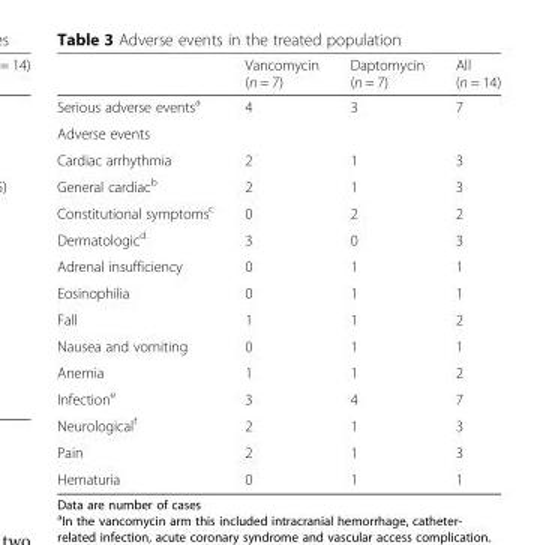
<table><thead><tr><td></td><td>Vancomycin (n = 7)</td><td>Daptomycin (n = 7)</td><td>All (n = 14)</td></tr></thead><tbody><tr><td>Serious adverse events<sup>a</sup></td><td>4</td><td>3</td><td>7</td></tr><tr><td colspan="4">Adverse events</td></tr><tr><td>Cardiac arrhythmia</td><td>2</td><td>1</td><td>3</td></tr><tr><td>General cardiac<sup>b</sup></td><td>2</td><td>1</td><td>3</td></tr><tr><td>Constitutional symptoms<sup>c</sup></td><td>0</td><td>2</td><td>2</td></tr><tr><td>Dermatologic<sup>d</sup></td><td>3</td><td>0</td><td>3</td></tr><tr><td>Adrenal insufficiency</td><td>0</td><td>1</td><td>1</td></tr><tr><td>Eosinophilia</td><td>0</td><td>1</td><td>1</td></tr><tr><td>Fall</td><td>1</td><td>1</td><td>2</td></tr><tr><td>Nausea and vomiting</td><td>0</td><td>1</td><td>1</td></tr><tr><td>Anemia</td><td>1</td><td>1</td><td>2</td></tr><tr><td>Infection<sup>e</sup></td><td>3</td><td>4</td><td>7</td></tr><tr><td>Neurological<sup>f</sup></td><td>2</td><td>1</td><td>3</td></tr><tr><td>Pain</td><td>2</td><td>1</td><td>3</td></tr><tr><td>Hematuria</td><td>0</td><td>1</td><td>1</td></tr></tbody></table>